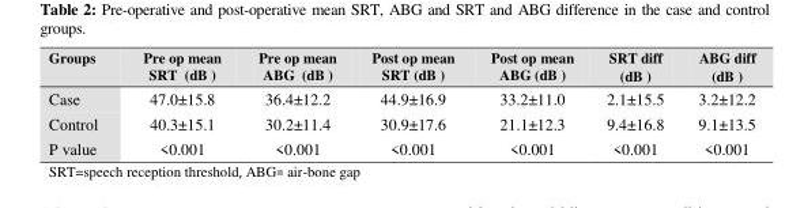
<table><thead><tr><td>Groups</td><td>Pre op mean SRT (dB )</td><td>Pre op mean ABG (dB )</td><td>Post op mean SRT (dB )</td><td>Post op mean ABG (dB )</td><td>SRT diff (dB )</td><td>ABG diff (dB )</td></tr></thead><tbody><tr><td>Case</td><td>47.0±15.8</td><td>36.4±12.2</td><td>44.9±16.9</td><td>33.2±11.0</td><td>2.1±15.5</td><td>3.2±12.2</td></tr><tr><td>Control</td><td>40.3±15.1</td><td>30.2±11.4</td><td>30.9±17.6</td><td>21.1±12.3</td><td>9.4±16.8</td><td>9.1±13.5</td></tr><tr><td>P value</td><td>&lt;0.001</td><td>&lt;0.001</td><td>&lt;0.001</td><td>&lt;0.001</td><td>&lt;0.001</td><td>&lt;0.001</td></tr></tbody></table>